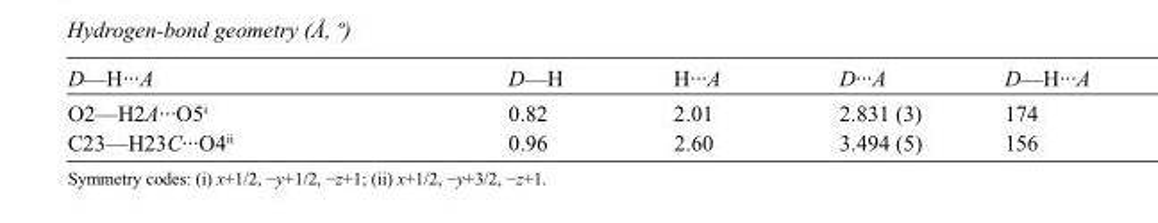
<table><tbody><tr><td>D—H···A</td><td>D—H</td><td>H···A</td><td>D···A</td><td>D—H···A</td></tr><tr><td>O2—H2A···O5<sup>i</sup></td><td>0.82</td><td>2.01</td><td>2.831 (3)</td><td>174</td></tr><tr><td>C23—H23C···O4<sup>ii</sup></td><td>0.96</td><td>2.60</td><td>3.494 (5)</td><td>156</td></tr></tbody></table>